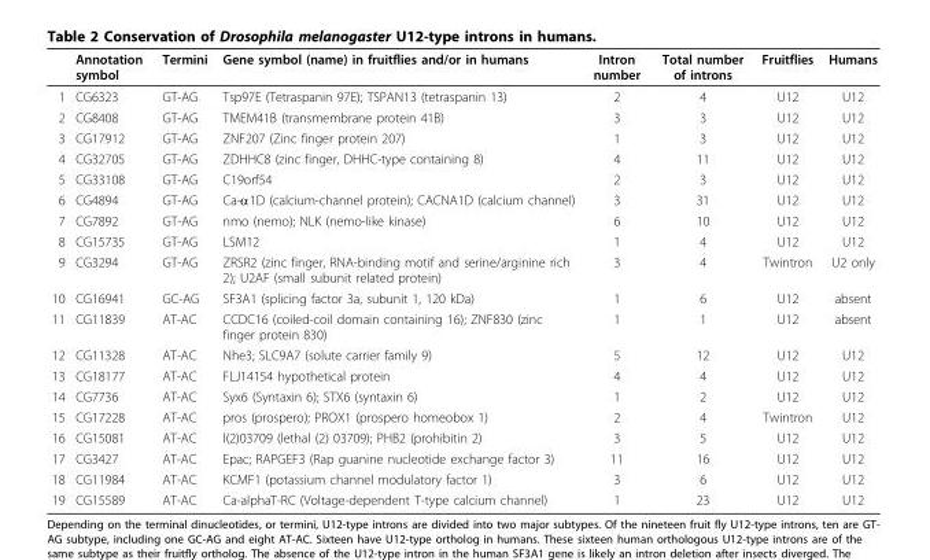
<table><thead><tr><td></td><td>Annotation symbol</td><td>Termini</td><td>Gene symbol (name) in fruitflies and/or in humans</td><td>Intron number</td><td>Total number of introns</td><td>Fruitflies</td><td>Humans</td></tr></thead><tbody><tr><td>1</td><td>CG6323</td><td>GT-AG</td><td>Tsp97E (Tetraspanin 97E); TSPAN13 (tetraspanin 13)</td><td>2</td><td>4</td><td>U12</td><td>U12</td></tr><tr><td>2</td><td>CG8408</td><td>GT-AG</td><td>TMEM41B (transmembrane protein 41B)</td><td>3</td><td>3</td><td>U12</td><td>U12</td></tr><tr><td>3</td><td>CG17912</td><td>GT-AG</td><td>ZNF207 (Zinc finger protein 207)</td><td>1</td><td>3</td><td>U12</td><td>U12</td></tr><tr><td>4</td><td>CG32705</td><td>GT-AG</td><td>ZDHHC8 (zinc finger, DHHC-type containing 8)</td><td>4</td><td>11</td><td>U12</td><td>U12</td></tr><tr><td>5</td><td>CG33108</td><td>GT-AG</td><td>C19orf54</td><td>2</td><td>3</td><td>U12</td><td>U12</td></tr><tr><td>6</td><td>CG4894</td><td>GT-AG</td><td>Ca-α1D (calcium-channel protein); CACNA1D (calcium channel)</td><td>3</td><td>31</td><td>U12</td><td>U12</td></tr><tr><td>7</td><td>CG7892</td><td>GT-AG</td><td>nmo (nemo); NLK (nemo-like kinase)</td><td>6</td><td>10</td><td>U12</td><td>U12</td></tr><tr><td>8</td><td>CG15735</td><td>GT-AG</td><td>LSM12</td><td>1</td><td>4</td><td>U12</td><td>U12</td></tr><tr><td>9</td><td>CG3294</td><td>GT-AG</td><td>ZRSR2 (zinc finger, RNA-binding motif and serine/arginine rich 2); U2AF (small subunit related protein)</td><td>3</td><td>4</td><td>Twintron</td><td>U2 only</td></tr><tr><td>10</td><td>CG16941</td><td>GC-AG</td><td>SF3A1 (splicing factor 3a, subunit 1, 120 kDa)</td><td>1</td><td>6</td><td>U12</td><td>absent</td></tr><tr><td>11</td><td>CG11839</td><td>AT-AC</td><td>CCDC16 (coiled-coil domain containing 16); ZNF830 (zinc finger protein 830)</td><td>1</td><td>1</td><td>U12</td><td>absent</td></tr><tr><td>12</td><td>CG11328</td><td>AT-AC</td><td>Nhe3; SLC9A7 (solute carrier family 9)</td><td>5</td><td>12</td><td>U12</td><td>U12</td></tr><tr><td>13</td><td>CG18177</td><td>AT-AC</td><td>FLJ14154 hypothetical protein</td><td>4</td><td>4</td><td>U12</td><td>U12</td></tr><tr><td>14</td><td>CG7736</td><td>AT-AC</td><td>Syx6 (Syntaxin 6); STX6 (syntaxin 6)</td><td>1</td><td>2</td><td>U12</td><td>U12</td></tr><tr><td>15</td><td>CG17228</td><td>AT-AC</td><td>pros (prospero); PROX1 (prospero homeobox 1)</td><td>2</td><td>4</td><td>Twintron</td><td>U12</td></tr><tr><td>16</td><td>CG15081</td><td>AT-AC</td><td>l(2)03709 (lethal (2) 03709); PHB2 (prohibitin 2)</td><td>3</td><td>5</td><td>U12</td><td>U12</td></tr><tr><td>17</td><td>CG3427</td><td>AT-AC</td><td>Epac; RAPGEF3 (Rap guanine nucleotide exchange factor 3)</td><td>11</td><td>16</td><td>U12</td><td>U12</td></tr><tr><td>18</td><td>CG11984</td><td>AT-AC</td><td>KCMF1 (potassium channel modulatory factor 1)</td><td>3</td><td>6</td><td>U12</td><td>U12</td></tr><tr><td>19</td><td>CG15589</td><td>AT-AC</td><td>Ca-alphaT-RC (Voltage-dependent T-type calcium channel)</td><td>1</td><td>23</td><td>U12</td><td>U12</td></tr></tbody></table>